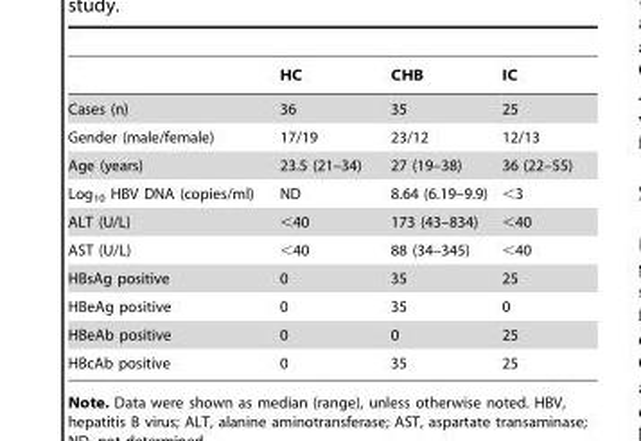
<table><thead><tr><td></td><td>HC</td><td>CHB</td><td>IC</td></tr></thead><tbody><tr><td>Cases (n)</td><td>36</td><td>35</td><td>25</td></tr><tr><td>Gender (male/female)</td><td>17/19</td><td>23/12</td><td>12/13</td></tr><tr><td>Age (years)</td><td>23.5 (21–34)</td><td>27 (19–38)</td><td>36 (22–55)</td></tr><tr><td>Log<sub>10</sub> HBV DNA (copies/ml)</td><td>ND</td><td>8.64 (6.19–9.9)</td><td>&lt;3</td></tr><tr><td>ALT (U/L)</td><td>&lt;40</td><td>173 (43–834)</td><td>&lt;40</td></tr><tr><td>AST (U/L)</td><td>&lt;40</td><td>88 (34–345)</td><td>&lt;40</td></tr><tr><td>HBsAg positive</td><td>0</td><td>35</td><td>25</td></tr><tr><td>HBeAg positive</td><td>0</td><td>35</td><td>0</td></tr><tr><td>HBeAb positive</td><td>0</td><td>0</td><td>25</td></tr><tr><td>HBcAb positive</td><td>0</td><td>35</td><td>25</td></tr></tbody></table>